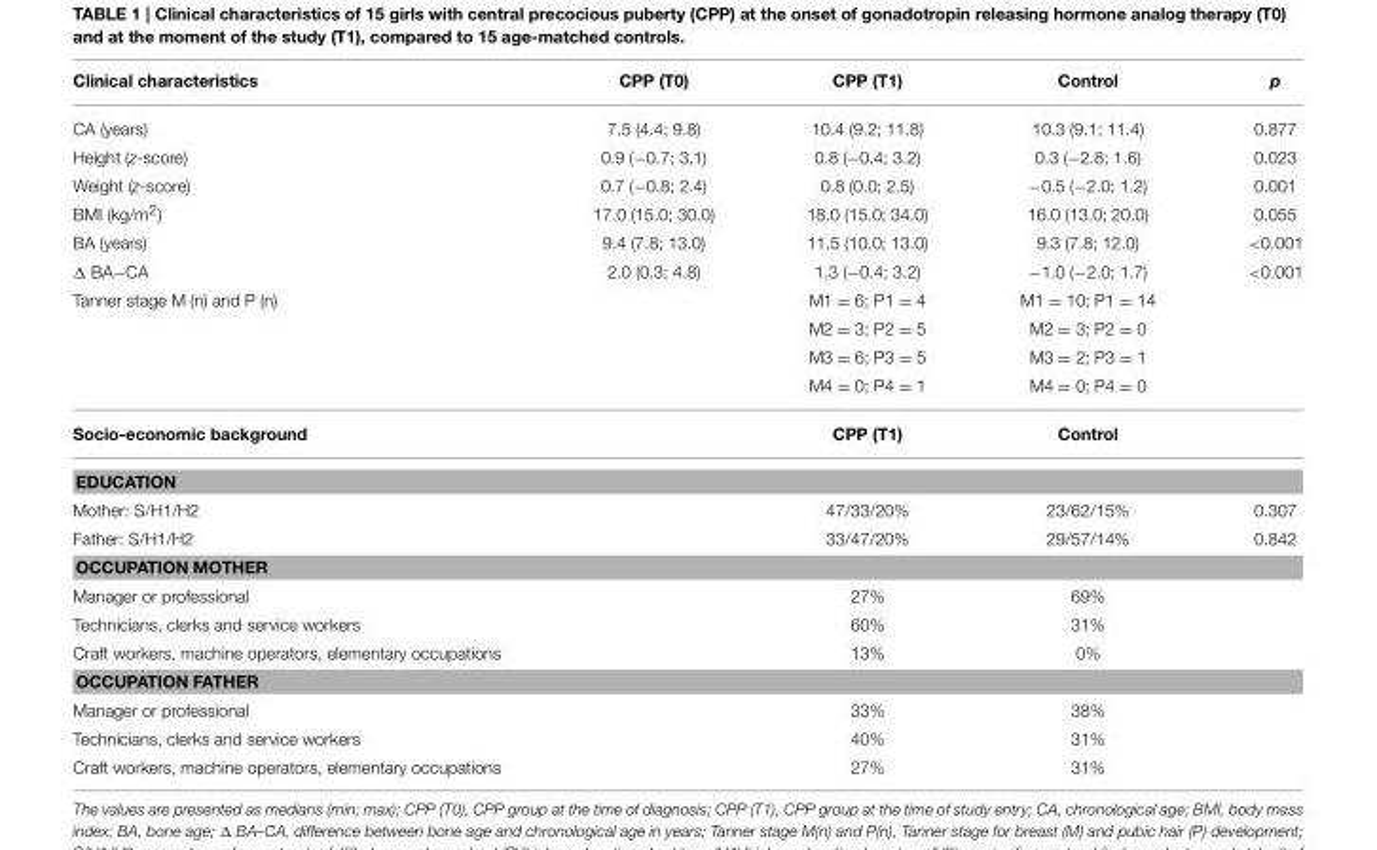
<table><thead><tr><td>Clinical characteristics</td><td>CPP (T0)</td><td>CPP (T1)</td><td>Control</td><td>p</td></tr></thead><tbody><tr><td>CA (years)</td><td>7.5 (4.4; 9.8)</td><td>10.4 (9.2; 11.8)</td><td>10.3 (9.1; 11.4)</td><td>0.877</td></tr><tr><td>Height (z-score)</td><td>0.9 (−0.7; 3,1)</td><td>0.8 (−0.4; 3.2)</td><td>0.3 (−2.8; 1.6)</td><td>0.023</td></tr><tr><td>Weight (z-score)</td><td>0.7 (−0.8; 2.4)</td><td>0.8 (0.0; 2.5)</td><td>−0.5 (−2.0; 1.2)</td><td>0.001</td></tr><tr><td>BMI (kg/m<sup>2</sup>)</td><td>17.0 (15.0; 30.0)</td><td>18.0 (15.0; 34.0)</td><td>16.0 (13.0; 20.0)</td><td>0.055</td></tr><tr><td>BA (years)</td><td>9.4 (7.8; 13.0)</td><td>11.5 (10.0; 13.0)</td><td>9.3 (7.8; 12.0)</td><td>&lt;0.001</td></tr><tr><td>Δ BA−CA</td><td>2.0 (0.3; 4.8)</td><td>1.3 (−0.4; 3.2)</td><td>−1.0 (−2.0; 1.7)</td><td>&lt;0.001</td></tr><tr><td rowspan="4">Tanner stage M (n) and P (n)</td><td></td><td>M1 = 6; P1 = 4</td><td>M1 = 10; P1 = 14</td><td></td></tr><tr><td></td><td>M2 = 3; P2 = 5</td><td>M2 = 3; P2 = 0</td><td></td></tr><tr><td></td><td>M3 = 6; P3 = 5</td><td>M3 = 2; P3 = 1</td><td></td></tr><tr><td></td><td>M4 = 0; P4 = 1</td><td>M4 = 0; P4 = 0</td><td></td></tr><tr><td>Socio-economic background</td><td></td><td>CPP (T1)</td><td>Control</td><td></td></tr><tr><td colspan="5">EDUCATION</td></tr><tr><td>Mother: S/H1/H2</td><td></td><td>47/33/20%</td><td>23/62/15%</td><td>0.307</td></tr><tr><td>Father: S/H1/H2</td><td></td><td>33/47/20%</td><td>29/57/14%</td><td>0.842</td></tr><tr><td colspan="5">OCCUPATION MOTHER</td></tr><tr><td>Manager or professional</td><td></td><td>27%</td><td>69%</td><td></td></tr><tr><td>Technicians, clerks and service workers</td><td></td><td>60%</td><td>31%</td><td></td></tr><tr><td>Craft workers, machine operators, elementary occupations</td><td></td><td>13%</td><td>0%</td><td></td></tr><tr><td colspan="5">OCCUPATION FATHER</td></tr><tr><td>Manager or professional</td><td></td><td>33%</td><td>38%</td><td></td></tr><tr><td>Technicians, clerks and service workers</td><td></td><td>40%</td><td>31%</td><td></td></tr><tr><td>Craft workers, machine operators, elementary occupations</td><td></td><td>27%</td><td>31%</td><td></td></tr></tbody></table>